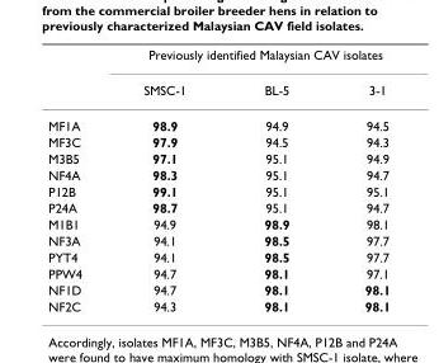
<table><thead><tr><td rowspan="2"></td><td colspan="3">Previously identified Malaysian CAV isolates</td></tr><tr><td>SMSC-1</td><td>BL-5</td><td>3-1</td></tr></thead><tbody><tr><td>MF1A</td><td>98.9</td><td>94.9</td><td>94.5</td></tr><tr><td>MF3C</td><td>97.9</td><td>94.5</td><td>94.3</td></tr><tr><td>M3B5</td><td>97.1</td><td>95.1</td><td>94.9</td></tr><tr><td>NF4A</td><td>98.3</td><td>95.1</td><td>94.7</td></tr><tr><td>P12B</td><td>99.1</td><td>95.1</td><td>95.1</td></tr><tr><td>P24A</td><td>98.7</td><td>95.1</td><td>94.7</td></tr><tr><td>M1B1</td><td>94.9</td><td>98.9</td><td>98.1</td></tr><tr><td>NF3A</td><td>94.1</td><td>98.5</td><td>97.7</td></tr><tr><td>PYT4</td><td>94.1</td><td>98.5</td><td>97.7</td></tr><tr><td>PPW4</td><td>94.7</td><td>98.1</td><td>97.1</td></tr><tr><td>NF1D</td><td>94.7</td><td>98.1</td><td>98.1</td></tr><tr><td>NF2C</td><td>94.3</td><td>98.1</td><td>98.1</td></tr></tbody></table>